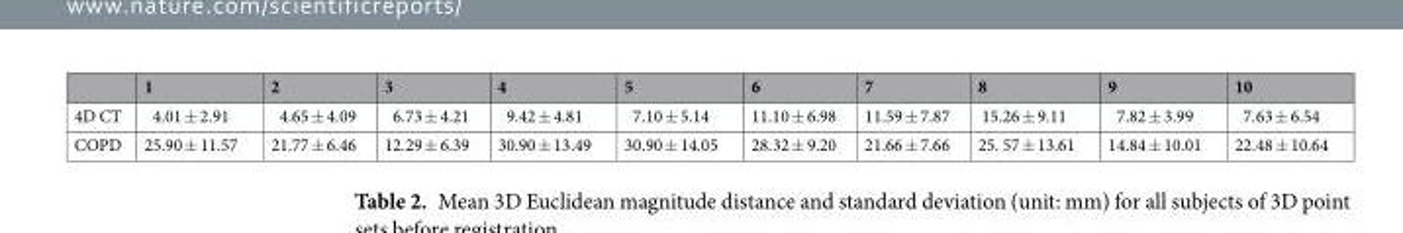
<table><thead><tr><td></td><td>1</td><td>2</td><td>3</td><td>4</td><td>5</td><td>6</td><td>7</td><td>8</td><td>9</td><td>10</td></tr></thead><tbody><tr><td>4D CT</td><td>4.01 ± 2.91</td><td>4.65 ± 4.09</td><td>6.73 ± 4.21</td><td>9.42 ± 4.81</td><td>7.10 ± 5.14</td><td>11.10 ± 6.98</td><td>11.59 ± 7.87</td><td>15.26 ± 9.11</td><td>7.82 ± 3.99</td><td>7.63 ± 6.54</td></tr><tr><td>COPD</td><td>25.90 ± 11.57</td><td>21.77 ± 6.46</td><td>12.29 ± 6.39</td><td>30.90 ± 13.49</td><td>30.90 ± 14.05</td><td>28.32 ± 9.20</td><td>21.66 ± 7.66</td><td>25. 57 ± 13.61</td><td>14.84 ± 10.01</td><td>22.48 ± 10.64</td></tr></tbody></table>